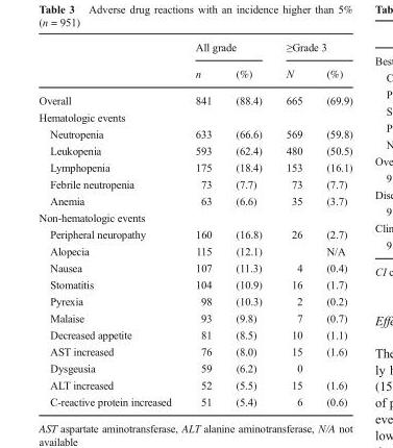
<table><thead><tr><td rowspan="2"></td><td colspan="2">All grade</td><td colspan="2">≥Grade 3</td></tr><tr><td>n</td><td>(%)</td><td>N</td><td>(%)</td></tr></thead><tbody><tr><td>Overall</td><td>841</td><td>(88.4)</td><td>665</td><td>(69.9)</td></tr><tr><td colspan="5">Hematologic events</td></tr><tr><td>Neutropenia</td><td>633</td><td>(66.6)</td><td>569</td><td>(59.8)</td></tr><tr><td>Leukopenia</td><td>593</td><td>(62.4)</td><td>480</td><td>(50.5)</td></tr><tr><td>Lymphopenia</td><td>175</td><td>(18.4)</td><td>153</td><td>(16.1)</td></tr><tr><td>Febrile neutropenia</td><td>73</td><td>(7.7)</td><td>73</td><td>(7.7)</td></tr><tr><td>Anemia</td><td>63</td><td>(6.6)</td><td>35</td><td>(3.7)</td></tr><tr><td colspan="5">Non-hematologic events</td></tr><tr><td>Peripheral neuropathy</td><td>160</td><td>(16.8)</td><td>26</td><td>(2.7)</td></tr><tr><td>Alopecia</td><td>115</td><td>(12.1)</td><td></td><td>N/A</td></tr><tr><td>Nausea</td><td>107</td><td>(11.3)</td><td>4</td><td>(0.4)</td></tr><tr><td>Stomatitis</td><td>104</td><td>(10.9)</td><td>16</td><td>(1.7)</td></tr><tr><td>Pyrexia</td><td>98</td><td>(10.3)</td><td>2</td><td>(0.2)</td></tr><tr><td>Malaise</td><td>93</td><td>(9.8)</td><td>7</td><td>(0.7)</td></tr><tr><td>Decreased appetite</td><td>81</td><td>(8.5)</td><td>10</td><td>(1.1)</td></tr><tr><td>AST increased</td><td>76</td><td>(8.0)</td><td>15</td><td>(1.6)</td></tr><tr><td>Dysgeusia</td><td>59</td><td>(6.2)</td><td>0</td><td></td></tr><tr><td>ALT increased</td><td>52</td><td>(5.5)</td><td>15</td><td>(1.6)</td></tr><tr><td>C-reactive protein increased</td><td>51</td><td>(5.4)</td><td>6</td><td>(0.6)</td></tr></tbody></table>